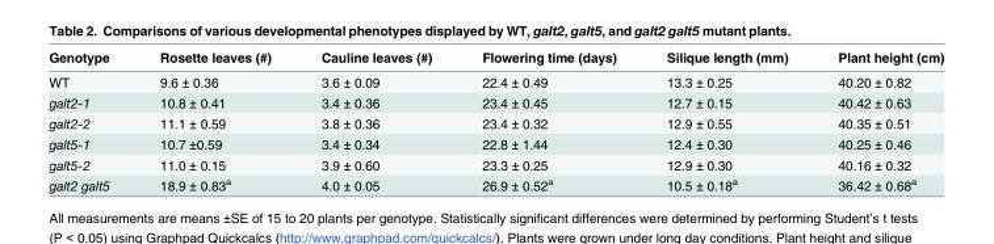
<table><thead><tr><td>Genotype</td><td>Rosette leaves (#)</td><td>Cauline leaves (#)</td><td>Flowering time (days)</td><td>Silique length (mm)</td><td>Plant height (cm)</td></tr></thead><tbody><tr><td>WT</td><td>9.6 ± 0.36</td><td>3.6 ± 0.09</td><td>22.4 ± 0.49</td><td>13.3 ± 0.25</td><td>40.20 ± 0.82</td></tr><tr><td>galt2-1</td><td>10.8 ± 0.41</td><td>3.4 ± 0.36</td><td>23.4 ± 0.45</td><td>12.7 ± 0.15</td><td>40.42 ± 0.63</td></tr><tr><td>galt2-2</td><td>11.1 ± 0.59</td><td>3.8 ± 0.36</td><td>23.4 ± 0.32</td><td>12.9 ± 0.55</td><td>40.35 ± 0.51</td></tr><tr><td>galt5-1</td><td>10.7 ±0.59</td><td>3.4 ± 0.34</td><td>22.8 ± 1.44</td><td>12.4 ± 0.30</td><td>40.25 ± 0.46</td></tr><tr><td>galt5-2</td><td>11.0 ± 0.15</td><td>3.9 ± 0.60</td><td>23.3 ± 0.25</td><td>12.9 ± 0.30</td><td>40.16 ± 0.32</td></tr><tr><td>galt2 galt5</td><td>18.9 ± 0.83<sup>a</sup></td><td>4.0 ± 0.05</td><td>26.9 ± 0.52<sup>a</sup></td><td>10.5 ± 0.18<sup>a</sup></td><td>36.42 ± 0.68<sup>a</sup></td></tr></tbody></table>